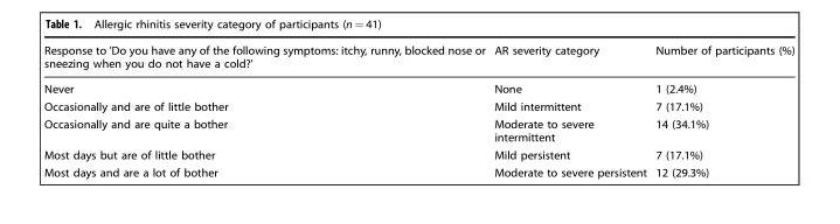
<table><thead><tr><td>Response to &#x27;Do you have any of the following symptoms: itchy, runny, blocked nose or sneezing when you do not have a cold?&#x27;</td><td>AR severity category</td><td>Number of participants (%)</td></tr></thead><tbody><tr><td>Never</td><td>None</td><td>1 (2.4%)</td></tr><tr><td>Occasionally and are of little bother</td><td>Mild intermittent</td><td>7 (17.1%)</td></tr><tr><td>Occasionally and are quite a bother</td><td>Moderate to severe intermittent</td><td>14 (34.1%)</td></tr><tr><td>Most days but are of little bother</td><td>Mild persistent</td><td>7 (17.1%)</td></tr><tr><td>Most days and are a lot of bother</td><td>Moderate to severe persistent</td><td>12 (29.3%)</td></tr></tbody></table>